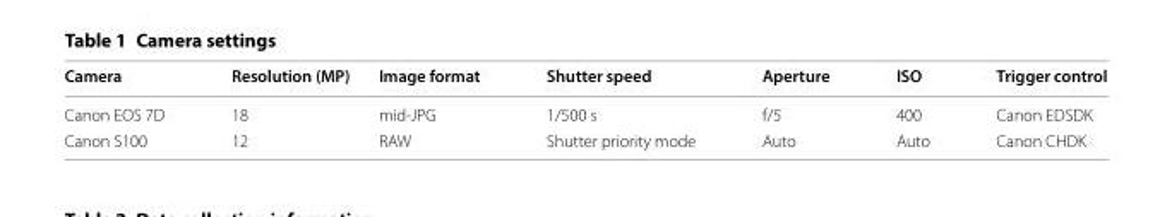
<table><thead><tr><td>Camera</td><td>Resolution (MP)</td><td>Image format</td><td>Shutter speed</td><td>Aperture</td><td>ISO</td><td>Trigger control</td></tr></thead><tbody><tr><td>Canon EOS 7D</td><td>18</td><td>mid-JPG</td><td>1/500 s</td><td>f/5</td><td>400</td><td>Canon EDSDK</td></tr><tr><td>Canon S100</td><td>12</td><td>RAW</td><td>Shutter priority mode</td><td>Auto</td><td>Auto</td><td>Canon CHDK</td></tr></tbody></table>